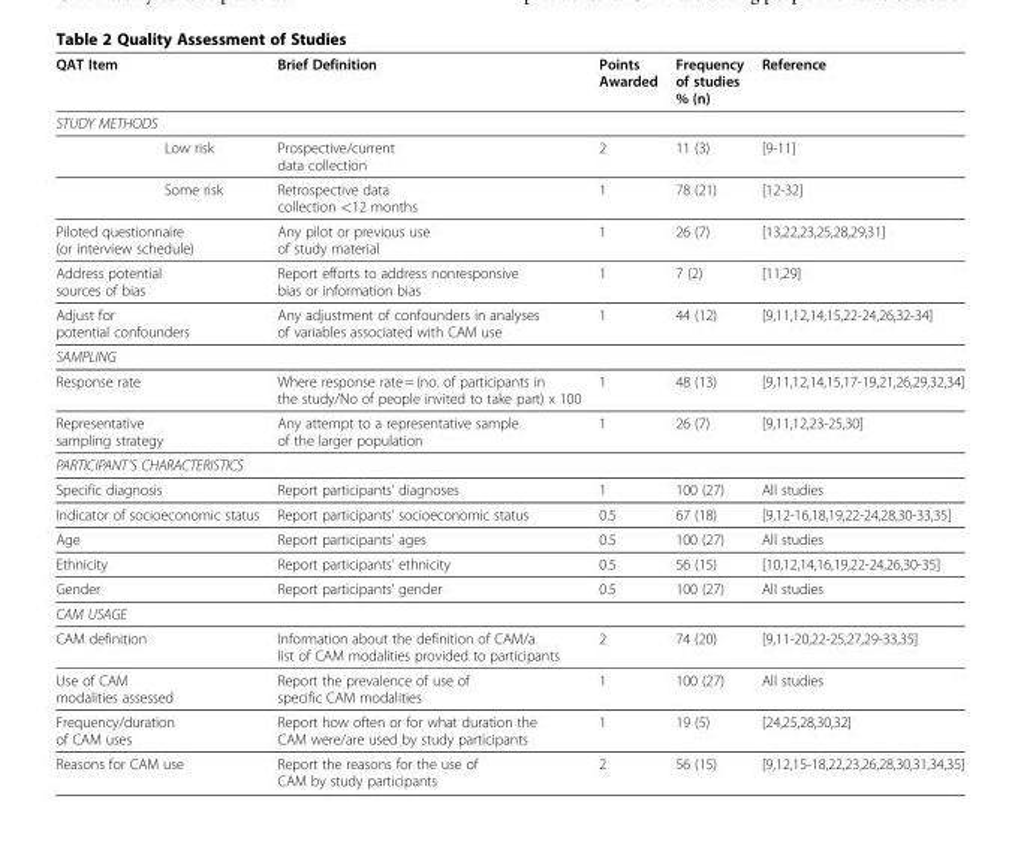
<table><thead><tr><td>QAT Item</td><td>Brief Definition</td><td>Points Awarded</td><td>Frequency of studies % (n)</td><td>Reference</td></tr></thead><tbody><tr><td colspan="5">STUDY METHODS</td></tr><tr><td>Low risk</td><td>Prospective/current data collection</td><td>2</td><td>11 (3)</td><td>[9-11]</td></tr><tr><td>Some risk</td><td>Retrospective data collection &lt;12 months</td><td>1</td><td>78 (21)</td><td>[12-32]</td></tr><tr><td>Piloted questionnaire (or interview schedule)</td><td>Any pilot or previous use of study material</td><td>1</td><td>26 (7)</td><td>[13,22,23,25,28,29,31]</td></tr><tr><td>Address potential sources of bias</td><td>Report efforts to address nonresponsive bias or information bias</td><td>1</td><td>7 (2)</td><td>[11,29]</td></tr><tr><td>Adjust for potential confounders</td><td>Any adjustment of confounders in analyses of variables associated with CAM use</td><td>1</td><td>44 (12)</td><td>[9,11,12,14,15,22-24,26,32-34]</td></tr><tr><td colspan="5">SAMPLING</td></tr><tr><td>Response rate</td><td>Where response rate = (no. of participants in the study/No of people invited to take part) x 100</td><td>1</td><td>48 (13)</td><td>[9,11,12,14,15,17-19,21,26,29,32,34]</td></tr><tr><td>Representative sampling strategy</td><td>Any attempt to a representative sample of the larger population</td><td>1</td><td>26 (7)</td><td>[9,11,12,23-25,30]</td></tr><tr><td colspan="5">PARTICIPANT’S CHARACTERISTICS</td></tr><tr><td>Specific diagnosis</td><td>Report participants’ diagnoses</td><td>1</td><td>100 (27)</td><td>All studies</td></tr><tr><td>Indicator of socioeconomic status</td><td>Report participants’ socioeconomic status</td><td>0.5</td><td>67 (18)</td><td>[9,12-16,18,19,22-24,28,30-33,35]</td></tr><tr><td>Age</td><td>Report participants’ ages</td><td>0.5</td><td>100 (27)</td><td>All studies</td></tr><tr><td>Ethnicity</td><td>Report participants’ ethnicity</td><td>0.5</td><td>56 (15)</td><td>[10,12,14,16,19,22-24,26,30-35]</td></tr><tr><td>Gender</td><td>Report participants’ gender</td><td>0.5</td><td>100 (27)</td><td>All studies</td></tr><tr><td colspan="5">CAM USAGE</td></tr><tr><td>CAM definition</td><td>Information about the definition of CAM/a list of CAM modalities provided to participants</td><td>2</td><td>74 (20)</td><td>[9,11-20,22-25,27,29-33,35]</td></tr><tr><td>Use of CAM modalities assessed</td><td>Report the prevalence of use of specific CAM modalities</td><td>1</td><td>100 (27)</td><td>All studies</td></tr><tr><td>Frequency/duration of CAM uses</td><td>Report how often or for what duration the CAM were/are used by study participants</td><td>1</td><td>19 (5)</td><td>[24,25,28,30,32]</td></tr><tr><td>Reasons for CAM use</td><td>Report the reasons for the use of CAM by study participants</td><td>2</td><td>56 (15)</td><td>[9,12,15-18,22,23,26,28,30,31,34,35]</td></tr></tbody></table>